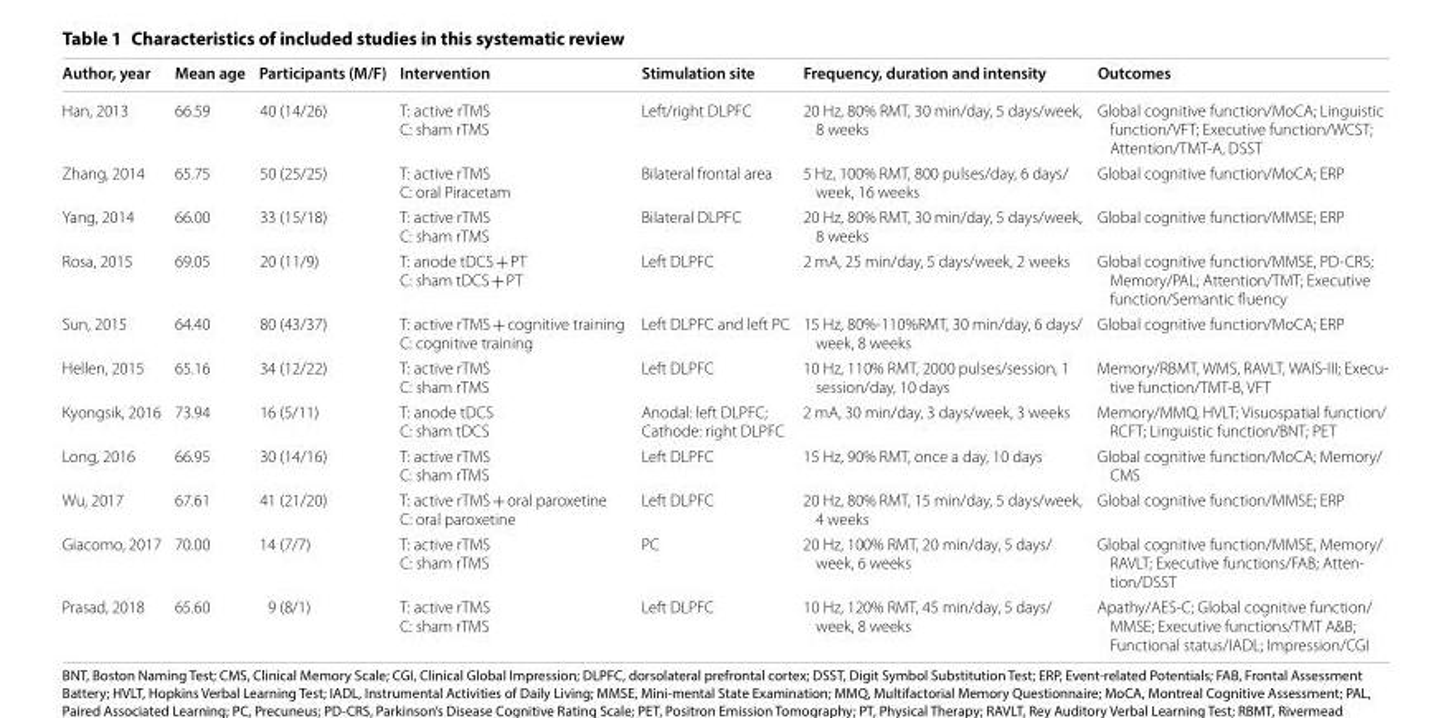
<table><thead><tr><td>Author, year</td><td>Mean age</td><td>Participants (M/F)</td><td>Intervention</td><td>Stimulation site</td><td>Frequency, duration and intensity</td><td>Outcomes</td></tr></thead><tbody><tr><td>Han, 2013</td><td>66.59</td><td>40 (14/26)</td><td>T: active rTMS C: sham rTMS</td><td>Left/right DLPFC</td><td>20 Hz, 80% RMT, 30 min/day, 5 days/week, 8 weeks</td><td>Global cognitive function/MoCA; Linguistic function/VFT; Executive function/WCST; Attention/TMT-A, DSST</td></tr><tr><td>Zhang, 2014</td><td>65.75</td><td>50 (25/25)</td><td>T: active rTMS C: oral Piracetam</td><td>Bilateral frontal area</td><td>5 Hz, 100% RMT, 800 pulses/day, 6 days/ week, 16 weeks</td><td>Global cognitive function/MoCA; ERP</td></tr><tr><td>Yang, 2014</td><td>66.00</td><td>33 (15/18)</td><td>T: active rTMS C: sham rTMS</td><td>Bilateral DLPFC</td><td>20 Hz, 80% RMT, 30 min/day, 5 days/week, 8 weeks</td><td>Global cognitive function/MMSE; ERP</td></tr><tr><td>Rosa, 2015</td><td>69.05</td><td>20 (11/9)</td><td>T: anode tDCS + PT C: sham tDCS + PT</td><td>Left DLPFC</td><td>2 mA, 25 min/day, 5 days/week, 2 weeks</td><td>Global cognitive function/MMSE, PD-CRS; Memory/PAL; Attention/TMT; Executive function/Semantic fluency</td></tr><tr><td>Sun, 2015</td><td>64.40</td><td>80 (43/37)</td><td>T: active rTMS + cognitive training C: cognitive training</td><td>Left DLPFC and left PC</td><td>15 Hz, 80%-110%RMT, 30 min/day, 6 days/ week, 8 weeks</td><td>Global cognitive function/MoCA; ERP</td></tr><tr><td>Hellen, 2015</td><td>65.16</td><td>34 (12/22)</td><td>T: active rTMS C: sham rTMS</td><td>Left DLPFC</td><td>10 Hz, 110% RMT, 2000 pulses/session, 1 session/day, 10 days</td><td>Memory/RBMT, WMS, RAVLT, WAIS-III; Execu- tive function/TMT-B, VFT</td></tr><tr><td>Kyongsik, 2016</td><td>73.94</td><td>16 (5/11)</td><td>T: anode tDCS C: sham tDCS</td><td>Anodal: left DLPFC; Cathode: right DLPFC</td><td>2 mA, 30 min/day, 3 days/week, 3 weeks</td><td>Memory/MMQ, HVLT; Visuospatial function/ RCFT; Linguistic function/BNT; PET</td></tr><tr><td>Long, 2016</td><td>66.95</td><td>30 (14/16)</td><td>T: active rTMS C: sham rTMS</td><td>Left DLPFC</td><td>15 Hz, 90% RMT, once a day, 10 days</td><td>Global cognitive function/MoCA; Memory/ CMS</td></tr><tr><td>Wu, 2017</td><td>67.61</td><td>41 (21/20)</td><td>T: active rTMS + oral paroxetine C: oral paroxetine</td><td>Left DLPFC</td><td>20 Hz, 80% RMT, 15 min/day, 5 days/week, 4 weeks</td><td>Global cognitive function/MMSE; ERP</td></tr><tr><td>Giacomo, 2017</td><td>70.00</td><td>14 (7/7)</td><td>T: active rTMS C: sham rTMS</td><td>PC</td><td>20 Hz, 100% RMT, 20 min/day, 5 days/ week, 6 weeks</td><td>Global cognitive function/MMSE, Memory/ RAVLT; Executive functions/FAB; Atten- tion/DSST</td></tr><tr><td>Prasad, 2018</td><td>65.60</td><td>9 (8/1)</td><td>T: active rTMS C: sham rTMS</td><td>Left DLPFC</td><td>10 Hz, 120% RMT, 45 min/day, 5 days/ week, 8 weeks</td><td>Apathy/AES-C; Global cognitive function/ MMSE; Executive functions/TMT A&amp;B; Functional status/IADL; Impression/CGI</td></tr></tbody></table>